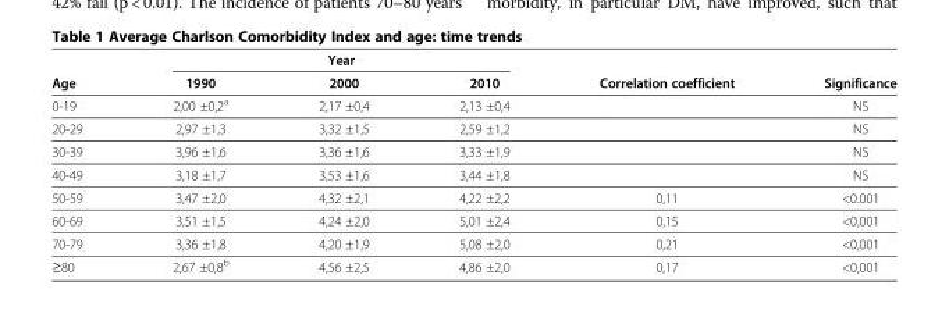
<table><thead><tr><td rowspan="2">Age</td><td colspan="3">Year</td><td rowspan="2">Correlation coefficient</td><td rowspan="2">Significance</td></tr><tr><td>1990</td><td>2000</td><td>2010</td></tr></thead><tbody><tr><td>0-19</td><td>2,00 ±0,2<sup>a</sup></td><td>2,17 ±0,4</td><td>2,13 ±0,4</td><td></td><td>NS</td></tr><tr><td>20-29</td><td>2,97 ±1,3</td><td>3,32 ±1,5</td><td>2,59 ±1,2</td><td></td><td>NS</td></tr><tr><td>30-39</td><td>3,96 ±1,6</td><td>3,36 ±1,6</td><td>3,33 ±1,9</td><td></td><td>NS</td></tr><tr><td>40-49</td><td>3,18 ±1,7</td><td>3,53 ±1,6</td><td>3,44 ±1,8</td><td></td><td>NS</td></tr><tr><td>50-59</td><td>3,47 ±2,0</td><td>4,32 ±2,1</td><td>4,22 ±2,2</td><td>0,11</td><td>&lt;0.001</td></tr><tr><td>60-69</td><td>3,51 ±1,5</td><td>4,24 ±2,0</td><td>5,01 ±2,4</td><td>0,15</td><td>&lt;0,001</td></tr><tr><td>70-79</td><td>3,36 ±1,8</td><td>4,20 ±1,9</td><td>5,08 ±2,0</td><td>0,21</td><td>&lt;0,001</td></tr><tr><td>≥80</td><td>2,67 ±0,8<sup>b</sup></td><td>4,56 ±2,5</td><td>4,86 ±2,0</td><td>0,17</td><td>&lt;0,001</td></tr></tbody></table>